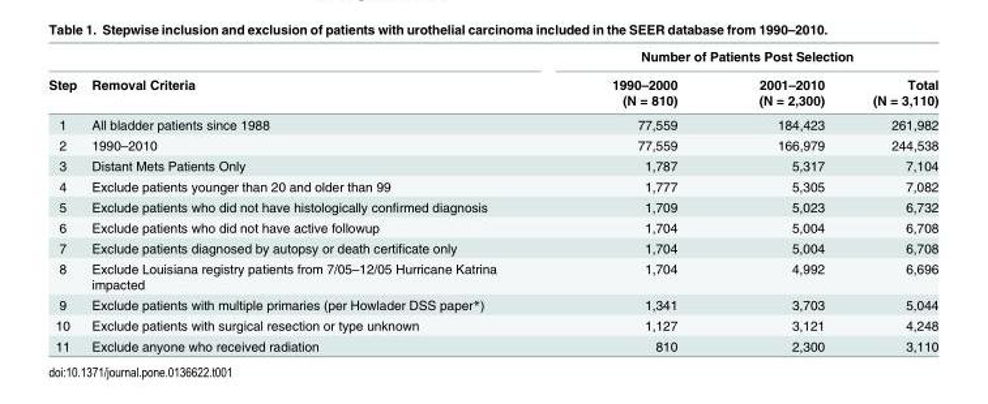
<table><thead><tr><td rowspan="2">Step</td><td rowspan="2">Removal Criteria</td><td colspan="3">Number of Patients Post Selection</td></tr><tr><td>1990–2000 (N = 810)</td><td>2001–2010 (N = 2,300)</td><td>Total (N = 3,110)</td></tr></thead><tbody><tr><td>1</td><td>All bladder patients since 1988</td><td>77,559</td><td>184,423</td><td>261,982</td></tr><tr><td>2</td><td>1990–2010</td><td>77,559</td><td>166,979</td><td>244,538</td></tr><tr><td>3</td><td>Distant Mets Patients Only</td><td>1,787</td><td>5,317</td><td>7,104</td></tr><tr><td>4</td><td>Exclude patients younger than 20 and older than 99</td><td>1,777</td><td>5,305</td><td>7,082</td></tr><tr><td>5</td><td>Exclude patients who did not have histologically confirmed diagnosis</td><td>1,709</td><td>5,023</td><td>6,732</td></tr><tr><td>6</td><td>Exclude patients who did not have active followup</td><td>1,704</td><td>5,004</td><td>6,708</td></tr><tr><td>7</td><td>Exclude patients diagnosed by autopsy or death certificate only</td><td>1,704</td><td>5,004</td><td>6,708</td></tr><tr><td>8</td><td>Exclude Louisiana registry patients from 7/05–12/05 Hurricane Katrina impacted</td><td>1,704</td><td>4,992</td><td>6,696</td></tr><tr><td>9</td><td>Exclude patients with multiple primaries (per Howlader DSS paper*)</td><td>1,341</td><td>3,703</td><td>5,044</td></tr><tr><td>10</td><td>Exclude patients with surgical resection or type unknown</td><td>1,127</td><td>3,121</td><td>4,248</td></tr><tr><td>11</td><td>Exclude anyone who received radiation</td><td>810</td><td>2,300</td><td>3,110</td></tr></tbody></table>